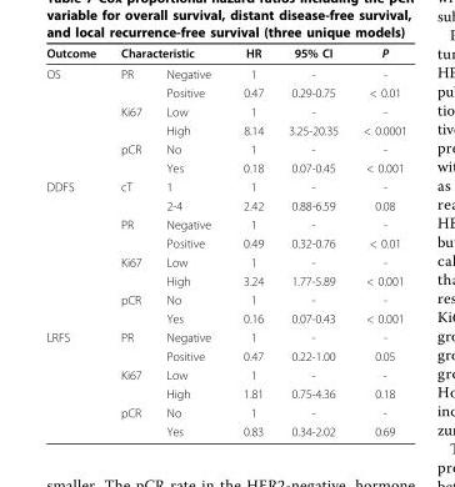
<table><thead><tr><td rowspan="2">Outcome OS</td><td colspan="2">Characteristic</td><td rowspan="2">HR 1</td><td rowspan="2">95% CI -</td><td rowspan="2">P -</td></tr><tr><td>PR</td><td>Negative</td></tr></thead><tbody><tr><td></td><td></td><td>Positive</td><td>0.47</td><td>0.29-0.75</td><td>&lt; 0.01</td></tr><tr><td></td><td>Ki67</td><td>Low</td><td>1</td><td>-</td><td>-</td></tr><tr><td></td><td></td><td>High</td><td>8.14</td><td>3.25-20.35</td><td>&lt; 0.0001</td></tr><tr><td></td><td>pCR</td><td>No</td><td>1</td><td>-</td><td>-</td></tr><tr><td></td><td></td><td>Yes</td><td>0.18</td><td>0.07-0.45</td><td>&lt; 0.001</td></tr><tr><td rowspan="8">DDFS</td><td>cT</td><td>1</td><td>1</td><td>-</td><td>-</td></tr><tr><td></td><td>2-4</td><td>2.42</td><td>0.88-6.59</td><td>0.08</td></tr><tr><td>PR</td><td>Negative</td><td>1</td><td>-</td><td>-</td></tr><tr><td></td><td>Positive</td><td>0.49</td><td>0.32-0.76</td><td>&lt; 0.01</td></tr><tr><td>Ki67</td><td>Low</td><td>1</td><td>-</td><td>-</td></tr><tr><td></td><td>High</td><td>3.24</td><td>1.77-5.89</td><td>&lt; 0.001</td></tr><tr><td>pCR</td><td>No</td><td>1</td><td>-</td><td>-</td></tr><tr><td></td><td>Yes</td><td>0.16</td><td>0.07-0.43</td><td>&lt; 0.001</td></tr><tr><td rowspan="6">LRFS</td><td>PR</td><td>Negative</td><td>1</td><td>-</td><td>-</td></tr><tr><td></td><td>Positive</td><td>0.47</td><td>0.22-1.00</td><td>0.05</td></tr><tr><td>Ki67</td><td>Low</td><td>1</td><td>-</td><td>-</td></tr><tr><td></td><td>High</td><td>1.81</td><td>0.75-4.36</td><td>0.18</td></tr><tr><td>pCR</td><td>No</td><td>1</td><td>-</td><td>-</td></tr><tr><td></td><td>Yes</td><td>0.83</td><td>0.34-2.02</td><td>0.69</td></tr></tbody></table>